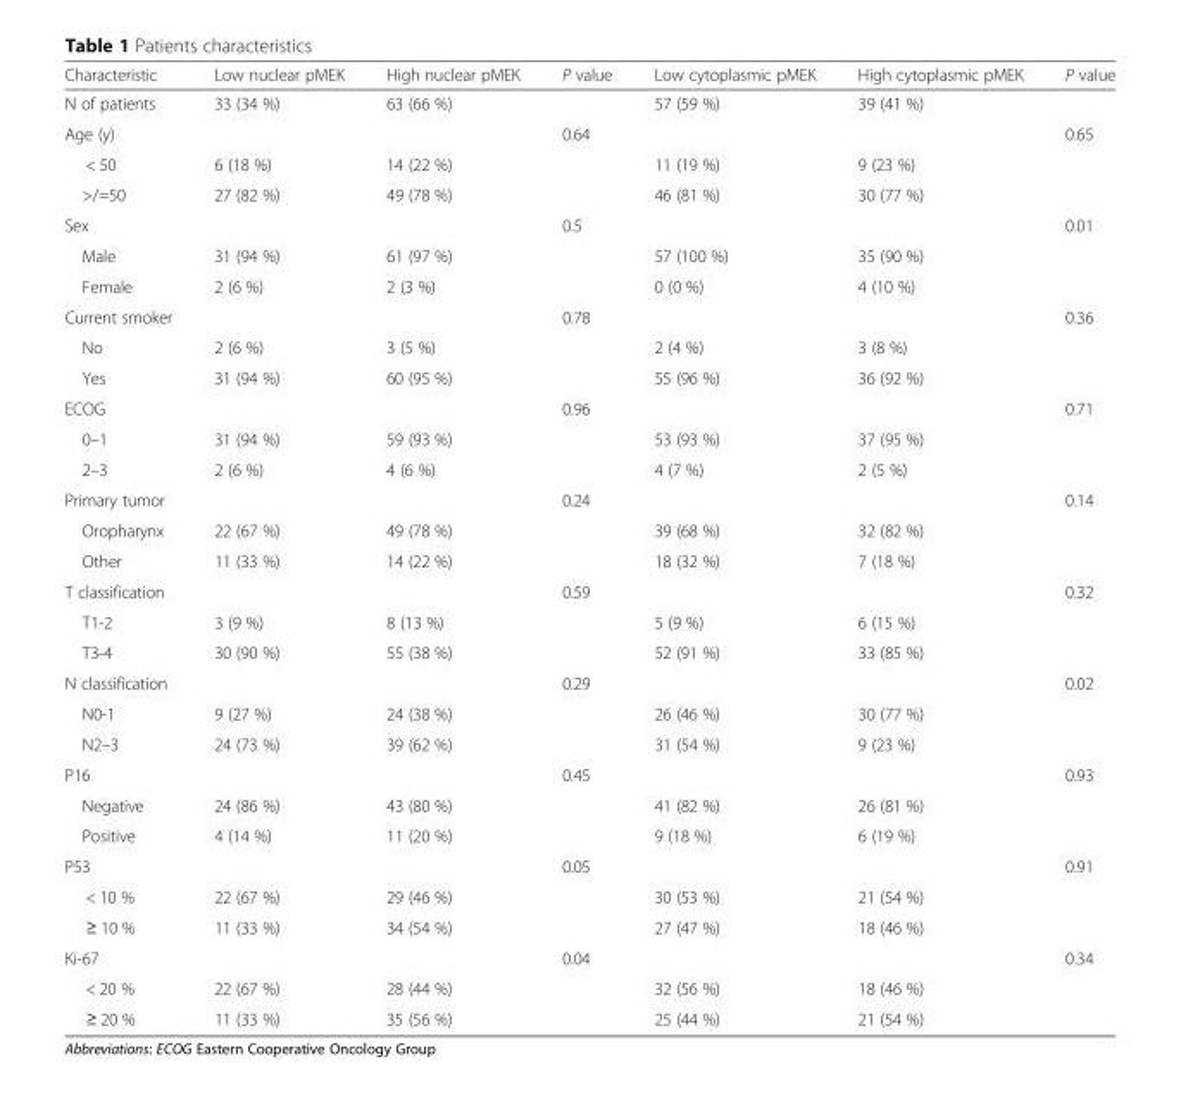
<table><thead><tr><td>Characteristic</td><td>Low nuclear pMEK</td><td>High nuclear pMEK</td><td>P value</td><td>Low cytoplasmic pMEK</td><td>High cytoplasmic pMEK</td><td>P value</td></tr></thead><tbody><tr><td>N of patients</td><td>33 (34 %)</td><td>63 (66 %)</td><td></td><td>57 (59 %)</td><td>39 (41 %)</td><td></td></tr><tr><td>Age (y)</td><td></td><td></td><td>0.64</td><td></td><td></td><td>0.65</td></tr><tr><td>&lt; 50</td><td>6 (18 %)</td><td>14 (22 %)</td><td></td><td>11 (19 %)</td><td>9 (23 %)</td><td></td></tr><tr><td>&gt;/=50</td><td>27 (82 %)</td><td>49 (78 %)</td><td></td><td>46 (81 %)</td><td>30 (77 %)</td><td></td></tr><tr><td>Sex</td><td></td><td></td><td>0.5</td><td></td><td></td><td>0.01</td></tr><tr><td>Male</td><td>31 (94 %)</td><td>61 (97 %)</td><td></td><td>57 (100 %)</td><td>35 (90 %)</td><td></td></tr><tr><td>Female</td><td>2 (6 %)</td><td>2 (3 %)</td><td></td><td>0 (0 %)</td><td>4 (10 %)</td><td></td></tr><tr><td>Current smoker</td><td></td><td></td><td>0.78</td><td></td><td></td><td>0.36</td></tr><tr><td>No</td><td>2 (6 %)</td><td>3 (5 %)</td><td></td><td>2 (4 %)</td><td>3 (8 %)</td><td></td></tr><tr><td>Yes</td><td>31 (94 %)</td><td>60 (95 %)</td><td></td><td>55 (96 %)</td><td>36 (92 %)</td><td></td></tr><tr><td>ECOG</td><td></td><td></td><td>0.96</td><td></td><td></td><td>0.71</td></tr><tr><td>0–1</td><td>31 (94 %)</td><td>59 (93 %)</td><td></td><td>53 (93 %)</td><td>37 (95 %)</td><td></td></tr><tr><td>2–3</td><td>2 (6 %)</td><td>4 (6 %)</td><td></td><td>4 (7 %)</td><td>2 (5 %)</td><td></td></tr><tr><td>Primary tumor</td><td></td><td></td><td>0.24</td><td></td><td></td><td>0.14</td></tr><tr><td>Oropharynx</td><td>22 (67 %)</td><td>49 (78 %)</td><td></td><td>39 (68 %)</td><td>32 (82 %)</td><td></td></tr><tr><td>Other</td><td>11 (33 %)</td><td>14 (22 %)</td><td></td><td>18 (32 %)</td><td>7 (18 %)</td><td></td></tr><tr><td>T classification</td><td></td><td></td><td>0.59</td><td></td><td></td><td>0.32</td></tr><tr><td>T1-2</td><td>3 (9 %)</td><td>8 (13 %)</td><td></td><td>5 (9 %)</td><td>6 (15 %)</td><td></td></tr><tr><td>T3-4</td><td>30 (90 %)</td><td>55 (38 %)</td><td></td><td>52 (91 %)</td><td>33 (85 %)</td><td></td></tr><tr><td>N classification</td><td></td><td></td><td>0.29</td><td></td><td></td><td>0.02</td></tr><tr><td>N0-1</td><td>9 (27 %)</td><td>24 (38 %)</td><td></td><td>26 (46 %)</td><td>30 (77 %)</td><td></td></tr><tr><td>N2–3</td><td>24 (73 %)</td><td>39 (62 %)</td><td></td><td>31 (54 %)</td><td>9 (23 %)</td><td></td></tr><tr><td>P16</td><td></td><td></td><td>0.45</td><td></td><td></td><td>0.93</td></tr><tr><td>Negative</td><td>24 (86 %)</td><td>43 (80 %)</td><td></td><td>41 (82 %)</td><td>26 (81 %)</td><td></td></tr><tr><td>Positive</td><td>4 (14 %)</td><td>11 (20 %)</td><td></td><td>9 (18 %)</td><td>6 (19 %)</td><td></td></tr><tr><td>P53</td><td></td><td></td><td>0.05</td><td></td><td></td><td>0.91</td></tr><tr><td>&lt; 10 %</td><td>22 (67 %)</td><td>29 (46 %)</td><td></td><td>30 (53 %)</td><td>21 (54 %)</td><td></td></tr><tr><td>≥ 10 %</td><td>11 (33 %)</td><td>34 (54 %)</td><td></td><td>27 (47 %)</td><td>18 (46 %)</td><td></td></tr><tr><td>Ki-67</td><td></td><td></td><td>0.04</td><td></td><td></td><td>0.34</td></tr><tr><td>&lt; 20 %</td><td>22 (67 %)</td><td>28 (44 %)</td><td></td><td>32 (56 %)</td><td>18 (46 %)</td><td></td></tr><tr><td>≥ 20 %</td><td>11 (33 %)</td><td>35 (56 %)</td><td></td><td>25 (44 %)</td><td>21 (54 %)</td><td></td></tr></tbody></table>